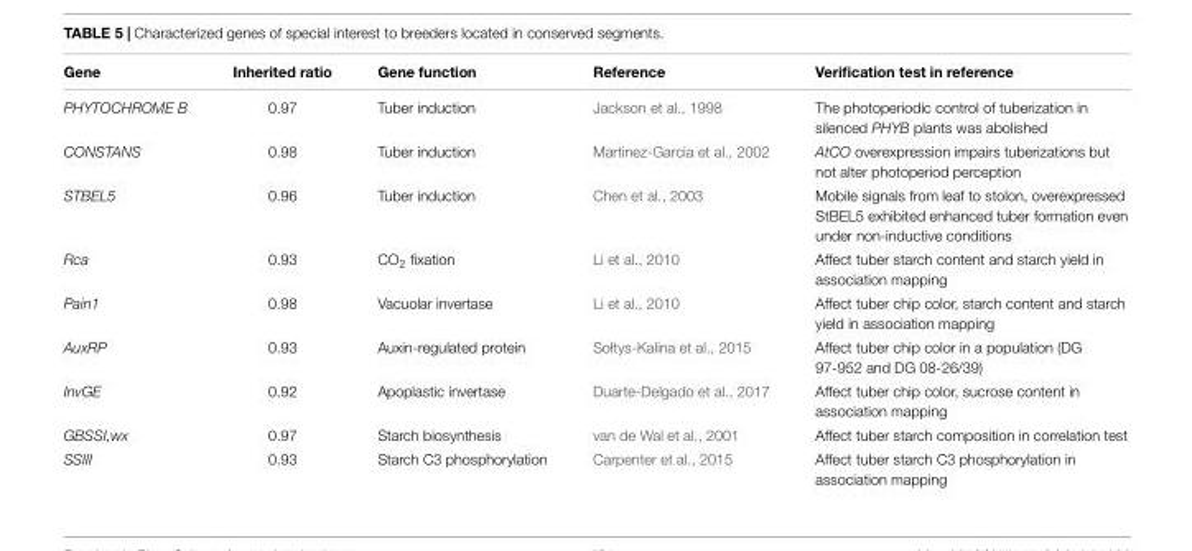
<table><thead><tr><td>Gene</td><td>Inherited ratio</td><td>Gene function</td><td>Reference</td><td>Verification test in reference</td></tr></thead><tbody><tr><td>PHYTOCHROME B</td><td>0.97</td><td>Tuber induction</td><td>Jackson et al., 1998</td><td>The photoperiodic control of tuberization in silenced PHYB plants was abolished</td></tr><tr><td>CONSTANS</td><td>0.98</td><td>Tuber induction</td><td>Martinez-Garcia et al., 2002</td><td>AtCO overexpression impairs tuberizations but not alter photoperiod perception</td></tr><tr><td>STBEL5</td><td>0.96</td><td>Tuber induction</td><td>Chen et al., 2003</td><td>Mobile signals from leaf to stolon, overexpressed StBEL5 exhibited enhanced tuber formation even under non-inductive conditions</td></tr><tr><td>Rca</td><td>0.93</td><td>CO<sub>2</sub> fixation</td><td>Li et al., 2010</td><td>Affect tuber starch content and starch yield in association mapping</td></tr><tr><td>Pain1</td><td>0.98</td><td>Vacuolar invertase</td><td>Li et al., 2010</td><td>Affect tuber chip color, starch content and starch yield in association mapping</td></tr><tr><td>AuxRP</td><td>0.93</td><td>Auxin-regulated protein</td><td>Sołtys-Kalina et al., 2015</td><td>Affect tuber chip color in a population (DG 97-952 and DG 08-26/39)</td></tr><tr><td>InvGE</td><td>0.92</td><td>Apoplastic invertase</td><td>Duarte-Delgado et al., 2017</td><td>Affect tuber chip color, sucrose content in association mapping</td></tr><tr><td>GBSSI,wx</td><td>0.97</td><td>Starch biosynthesis</td><td>van de Wal et al., 2001</td><td>Affect tuber starch composition in correlation test</td></tr><tr><td>SSIII</td><td>0.93</td><td>Starch C3 phosphorylation</td><td>Carpenter et al., 2015</td><td>Affect tuber starch C3 phosphorylation in association mapping</td></tr></tbody></table>